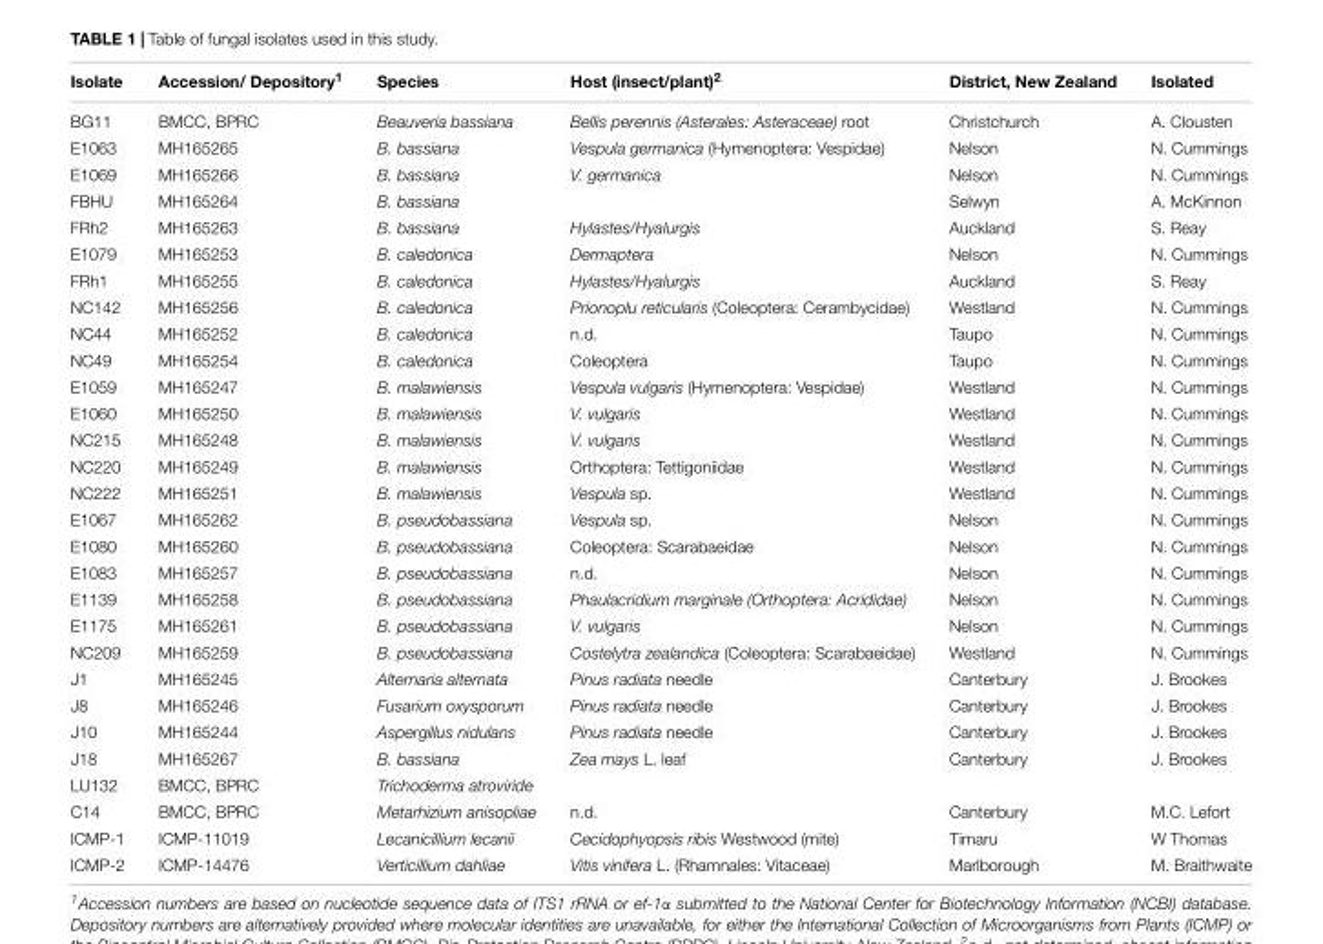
<table><thead><tr><td>Isolate</td><td>Accession/ Depository<sup>1</sup></td><td>Species</td><td>Host (insect/plant)<sup>2</sup></td><td>District, New Zealand</td><td>Isolated</td></tr></thead><tbody><tr><td>BG11</td><td>BMCC, BPRC</td><td>Beauveria bassiana</td><td>Bellis perennis (Asterales: Asteraceae) root</td><td>Christchurch</td><td>A. Clousten</td></tr><tr><td>E1063</td><td>MH165265</td><td>B. bassiana</td><td>Vespula germanica (Hymenoptera: Vespidae)</td><td>Nelson</td><td>N. Cummings</td></tr><tr><td>E1069</td><td>MH165266</td><td>B. bassiana</td><td>V. germanica</td><td>Nelson</td><td>N. Cummings</td></tr><tr><td>FBHU</td><td>MH165264</td><td>B. bassiana</td><td></td><td>Selwyn</td><td>A. McKinnon</td></tr><tr><td>FRh2</td><td>MH165263</td><td>B. bassiana</td><td>Hylastes/Hyalurgis</td><td>Auckland</td><td>S. Reay</td></tr><tr><td>E1079</td><td>MH165253</td><td>B. caledonica</td><td>Dermaptera</td><td>Nelson</td><td>N. Cummings</td></tr><tr><td>FRh1</td><td>MH165255</td><td>B. caledonica</td><td>Hylastes/Hyalurgis</td><td>Auckland</td><td>S. Reay</td></tr><tr><td>NC142</td><td>MH165256</td><td>B. caledonica</td><td>Prionoplu reticularis (Coleoptera: Cerambycidae)</td><td>Westland</td><td>N. Cummings</td></tr><tr><td>NC44</td><td>MH165252</td><td>B. caledonica</td><td>n.d.</td><td>Taupo</td><td>N. Cummings</td></tr><tr><td>NC49</td><td>MH165254</td><td>B. caledonica</td><td>Coleoptera</td><td>Taupo</td><td>N. Cummings</td></tr><tr><td>E1059</td><td>MH165247</td><td>B. malawiensis</td><td>Vespula vulgaris (Hymenoptera: Vespidae)</td><td>Westland</td><td>N. Cummings</td></tr><tr><td>E1060</td><td>MH165250</td><td>B. malawiensis</td><td>V. vulgaris</td><td>Westland</td><td>N. Cummings</td></tr><tr><td>NC215</td><td>MH165248</td><td>B. malawiensis</td><td>V. vulgaris</td><td>Westland</td><td>N. Cummings</td></tr><tr><td>NC220</td><td>MH165249</td><td>B. malawiensis</td><td>Orthoptera: Tettigoniidae</td><td>Westland</td><td>N. Cummings</td></tr><tr><td>NC222</td><td>MH165251</td><td>B. malawiensis</td><td>Vespula sp.</td><td>Westland</td><td>N. Cummings</td></tr><tr><td>E1067</td><td>MH165262</td><td>B. pseudobassiana</td><td>Vespula sp.</td><td>Nelson</td><td>N. Cummings</td></tr><tr><td>E1080</td><td>MH165260</td><td>B. pseudobassiana</td><td>Coleoptera: Scarabaeidae</td><td>Nelson</td><td>N. Cummings</td></tr><tr><td>E1083</td><td>MH165257</td><td>B. pseudobassiana</td><td>n.d.</td><td>Nelson</td><td>N. Cummings</td></tr><tr><td>E1139</td><td>MH165258</td><td>B. pseudobassiana</td><td>Phaulacridium marginale (Orthoptera: Acrididae)</td><td>Nelson</td><td>N. Cummings</td></tr><tr><td>E1175</td><td>MH165261</td><td>B. pseudobassiana</td><td>V. vulgaris</td><td>Nelson</td><td>N. Cummings</td></tr><tr><td>NC209</td><td>MH165259</td><td>B. pseudobassiana</td><td>Costelytra zealandica (Coleoptera: Scarabaeidae)</td><td>Westland</td><td>N. Cummings</td></tr><tr><td>J1</td><td>MH165245</td><td>Alternaria alternata</td><td>Pinus radiata needle</td><td>Canterbury</td><td>J. Brookes</td></tr><tr><td>J8</td><td>MH165246</td><td>Fusarium oxysporum</td><td>Pinus radiata needle</td><td>Canterbury</td><td>J. Brookes</td></tr><tr><td>J10</td><td>MH165244</td><td>Aspergillus nidulans</td><td>Pinus radiata needle</td><td>Canterbury</td><td>J. Brookes</td></tr><tr><td>J18</td><td>MH165267</td><td>B. bassiana</td><td>Zea mays L. leaf</td><td>Canterbury</td><td>J. Brookes</td></tr><tr><td>LU132</td><td>BMCC, BPRC</td><td>Trichoderma atroviride</td><td></td><td></td><td></td></tr><tr><td>C14</td><td>BMCC, BPRC</td><td>Metarhizium anisopliae</td><td>n.d.</td><td>Canterbury</td><td>M.C. Lefort</td></tr><tr><td>ICMP-1</td><td>ICMP-11019</td><td>Lecanicillium lecanii</td><td>Cecidophyopsis ribis Westwood (mite)</td><td>Timaru</td><td>W Thomas</td></tr><tr><td>ICMP-2</td><td>ICMP-14476</td><td>Verticillium dahliae</td><td>Vitis vinifera L. (Rhamnales: Vitaceae)</td><td>Marlborough</td><td>M. Braithwaite</td></tr></tbody></table>